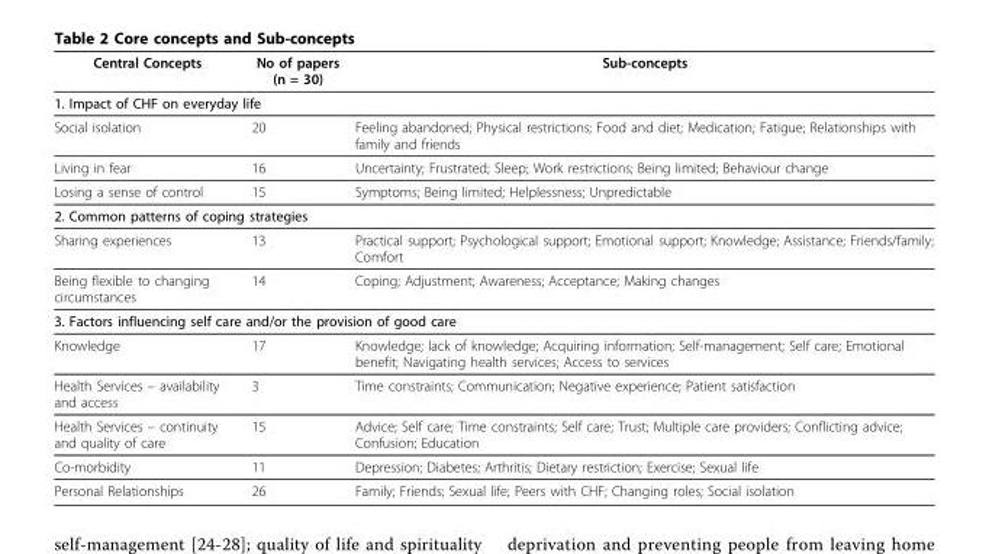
<table><thead><tr><td>Central Concepts</td><td>No of papers (n = 30)</td><td>Sub-concepts</td></tr></thead><tbody><tr><td colspan="3">1. Impact of CHF on everyday life</td></tr><tr><td>Social isolation</td><td>20</td><td>Feeling abandoned; Physical restrictions; Food and diet; Medication; Fatigue; Relationships with family and friends</td></tr><tr><td>Living in fear</td><td>16</td><td>Uncertainty; Frustrated; Sleep; Work restrictions; Being limited; Behaviour change</td></tr><tr><td>Losing a sense of control</td><td>15</td><td>Symptoms; Being limited; Helplessness; Unpredictable</td></tr><tr><td colspan="3">2. Common patterns of coping strategies</td></tr><tr><td>Sharing experiences</td><td>13</td><td>Practical support; Psychological support; Emotional support; Knowledge; Assistance; Friends/family; Comfort</td></tr><tr><td>Being flexible to changing circumstances</td><td>14</td><td>Coping; Adjustment; Awareness; Acceptance; Making changes</td></tr><tr><td colspan="3">3. Factors influencing self care and/or the provision of good care</td></tr><tr><td>Knowledge</td><td>17</td><td>Knowledge; lack of knowledge; Acquiring information; Self-management; Self care; Emotional benefit; Navigating health services; Access to services</td></tr><tr><td>Health Services – availability and access</td><td>3</td><td>Time constraints; Communication; Negative experience; Patient satisfaction</td></tr><tr><td>Health Services – continuity and quality of care</td><td>15</td><td>Advice; Self care; Time constraints; Self care; Trust; Multiple care providers; Conflicting advice; Confusion; Education</td></tr><tr><td>Co-morbidity</td><td>11</td><td>Depression; Diabetes; Arthritis; Dietary restriction; Exercise; Sexual life</td></tr><tr><td>Personal Relationships</td><td>26</td><td>Family; Friends; Sexual life; Peers with CHF; Changing roles; Social isolation</td></tr></tbody></table>